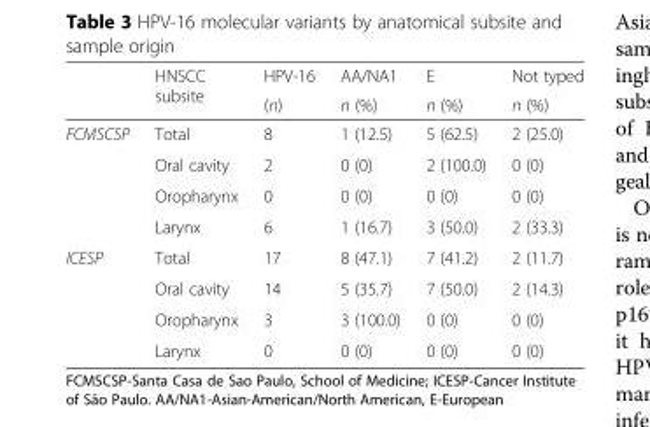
<table><thead><tr><td rowspan="2"></td><td rowspan="2">HNSCC subsite</td><td rowspan="2">HPV-16 (n)</td><td rowspan="2">AA/NA1 n (%)</td><td rowspan="2">E n (%)</td><td rowspan="2">Not typed n (%)</td></tr><tr></tr></thead><tbody><tr><td rowspan="4">FCMSCSP</td><td>Total</td><td>8</td><td>1 (12.5)</td><td>5 (62.5)</td><td>2 (25.0)</td></tr><tr><td>Oral cavity</td><td>2</td><td>0 (0)</td><td>2 (100.0)</td><td>0 (0)</td></tr><tr><td>Oropharynx</td><td>0</td><td>0 (0)</td><td>0 (0)</td><td>0 (0)</td></tr><tr><td>Larynx</td><td>6</td><td>1 (16.7)</td><td>3 (50.0)</td><td>2 (33.3)</td></tr><tr><td rowspan="4">ICESP</td><td>Total</td><td>17</td><td>8 (47.1)</td><td>7 (41.2)</td><td>2 (11.7)</td></tr><tr><td>Oral cavity</td><td>14</td><td>5 (35.7)</td><td>7 (50.0)</td><td>2 (14.3)</td></tr><tr><td>Oropharynx</td><td>3</td><td>3 (100.0)</td><td>0 (0)</td><td>0 (0)</td></tr><tr><td>Larynx</td><td>0</td><td>0 (0)</td><td>0 (0)</td><td>0 (0)</td></tr></tbody></table>